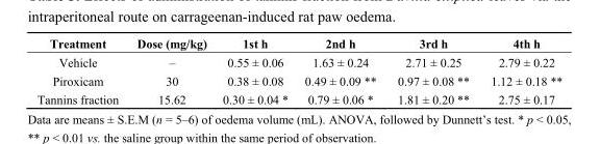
<table><thead><tr><td>Treatment</td><td>Dose (mg/kg)</td><td>1st h</td><td>2nd h</td><td>3rd h</td><td>4th h</td></tr></thead><tbody><tr><td>Vehicle</td><td>–</td><td>0.55 ± 0.06</td><td>1.63 ± 0.24</td><td>2.71 ± 0.25</td><td>2.79 ± 0.22</td></tr><tr><td>Piroxicam</td><td>30</td><td>0.38 ± 0.08</td><td>0.49 ± 0.09 **</td><td>0.97 ± 0.08 **</td><td>1.12 ± 0.18 **</td></tr><tr><td>Tannins fraction</td><td>15.62</td><td>0.30 ± 0.04 *</td><td>0.79 ± 0.06 *</td><td>1.81 ± 0.20 **</td><td>2.75 ± 0.17</td></tr></tbody></table>